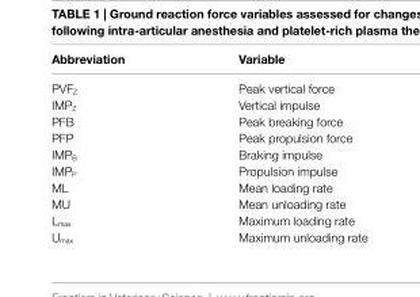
<table><thead><tr><td>abbreviation</td><td>Variable</td></tr></thead><tbody><tr><td>PVF<sub>Z</sub></td><td>Peak vertical force</td></tr><tr><td>IMP<sub>Z</sub></td><td>Vertical impulse</td></tr><tr><td>PFB</td><td>Peak breaking force</td></tr><tr><td>PFP</td><td>Peak propulsion force</td></tr><tr><td>IMP<sub>B</sub></td><td>Braking impulse</td></tr><tr><td>IMP<sub>P</sub></td><td>Propulsion impulse</td></tr><tr><td>ML</td><td>Mean loading rate</td></tr><tr><td>MU</td><td>Mean unloading rate</td></tr><tr><td>L<sub>max</sub></td><td>Maximum loading rate</td></tr><tr><td>U<sub>max</sub></td><td>Maximum unloading rate</td></tr></tbody></table>